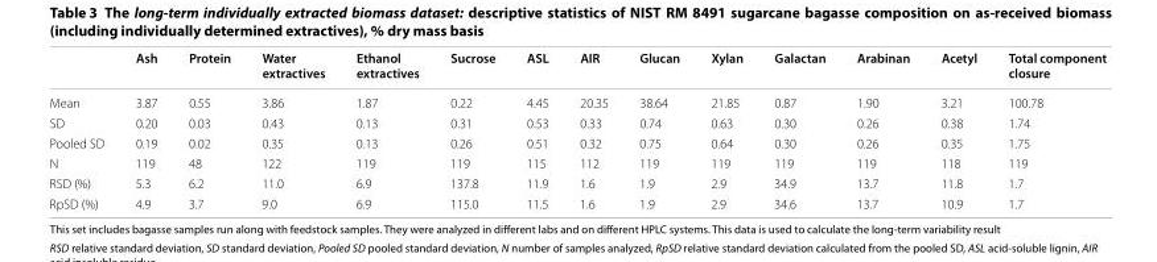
<table><thead><tr><td></td><td>Ash</td><td>Protein</td><td>Water extractives</td><td>Ethanol extractives</td><td>Sucrose</td><td>ASL</td><td>AIR</td><td>Glucan</td><td>Xylan</td><td>Galactan</td><td>Arabinan</td><td>Acetyl</td><td>Total component closure</td></tr></thead><tbody><tr><td>Mean</td><td>3.87</td><td>0.55</td><td>3.86</td><td>1.87</td><td>0.22</td><td>4.45</td><td>20.35</td><td>38.64</td><td>21.85</td><td>0.87</td><td>1.90</td><td>3.21</td><td>100.78</td></tr><tr><td>SD</td><td>0.20</td><td>0.03</td><td>0.43</td><td>0.13</td><td>0.31</td><td>0.53</td><td>0.33</td><td>0.74</td><td>0.63</td><td>0.30</td><td>0.26</td><td>0.38</td><td>1.74</td></tr><tr><td>Pooled SD</td><td>0.19</td><td>0.02</td><td>0.35</td><td>0.13</td><td>0.26</td><td>0.51</td><td>0.32</td><td>0.75</td><td>0.64</td><td>0.30</td><td>0.26</td><td>0.35</td><td>1.75</td></tr><tr><td>N</td><td>119</td><td>48</td><td>122</td><td>119</td><td>119</td><td>115</td><td>112</td><td>119</td><td>119</td><td>119</td><td>119</td><td>118</td><td>119</td></tr><tr><td>RSD (%)</td><td>5.3</td><td>6.2</td><td>11.0</td><td>6.9</td><td>137.8</td><td>11.9</td><td>1.6</td><td>1.9</td><td>2.9</td><td>34.9</td><td>13.7</td><td>11.8</td><td>1.7</td></tr><tr><td>RpSD (%)</td><td>4.9</td><td>3.7</td><td>9.0</td><td>6.9</td><td>115.0</td><td>11.5</td><td>1.6</td><td>1.9</td><td>2.9</td><td>34.6</td><td>13.7</td><td>10.9</td><td>1.7</td></tr></tbody></table>